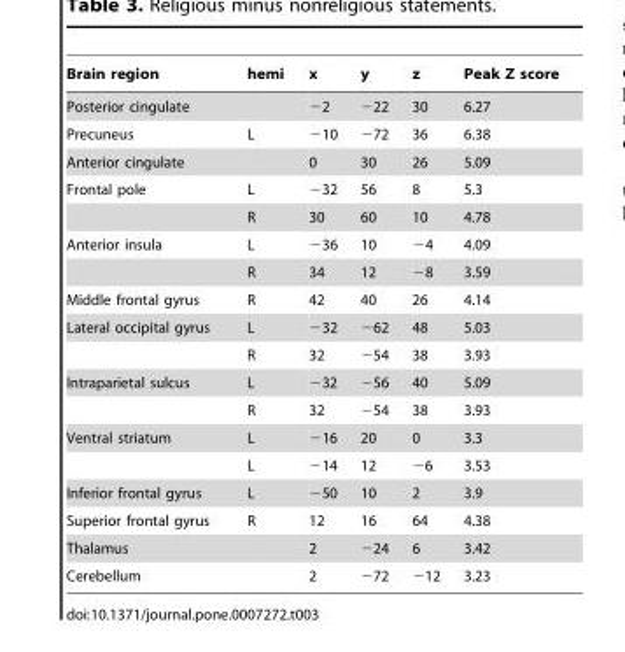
<table><thead><tr><td>Brain region</td><td>hemi</td><td>x</td><td>y</td><td>z</td><td>Peak Z score</td></tr></thead><tbody><tr><td>Posterior cingulate</td><td></td><td>−2</td><td>−22</td><td>30</td><td>6.27</td></tr><tr><td>Precuneus</td><td>L</td><td>−10</td><td>−72</td><td>36</td><td>6.38</td></tr><tr><td>Anterior cingulate</td><td></td><td>0</td><td>30</td><td>26</td><td>5.09</td></tr><tr><td rowspan="2">Frontal pole</td><td>L</td><td>−32</td><td>56</td><td>8</td><td>5.3</td></tr><tr><td>R</td><td>30</td><td>60</td><td>10</td><td>4.78</td></tr><tr><td rowspan="2">Anterior insula</td><td>L</td><td>−36</td><td>10</td><td>−4</td><td>4.09</td></tr><tr><td>R</td><td>34</td><td>12</td><td>−8</td><td>3.59</td></tr><tr><td>Middle frontal gyrus</td><td>R</td><td>42</td><td>40</td><td>26</td><td>4.14</td></tr><tr><td rowspan="2">Lateral occipital gyrus</td><td>L</td><td>−32</td><td>−62</td><td>48</td><td>5.03</td></tr><tr><td>R</td><td>32</td><td>−54</td><td>38</td><td>3.93</td></tr><tr><td rowspan="2">Intraparietal sulcus</td><td>L</td><td>−32</td><td>−56</td><td>40</td><td>5.09</td></tr><tr><td>R</td><td>32</td><td>−54</td><td>38</td><td>3.93</td></tr><tr><td rowspan="2">Ventral striatum</td><td>L</td><td>−16</td><td>20</td><td>0</td><td>3.3</td></tr><tr><td>L</td><td>−14</td><td>12</td><td>−6</td><td>3.53</td></tr><tr><td>Inferior frontal gyrus</td><td>L</td><td>−50</td><td>10</td><td>2</td><td>3.9</td></tr><tr><td>Superior frontal gyrus</td><td>R</td><td>12</td><td>16</td><td>64</td><td>4.38</td></tr><tr><td>Thalamus</td><td></td><td>2</td><td>−24</td><td>6</td><td>3.42</td></tr><tr><td>Cerebellum</td><td></td><td>2</td><td>−72</td><td>−12</td><td>3.23</td></tr></tbody></table>